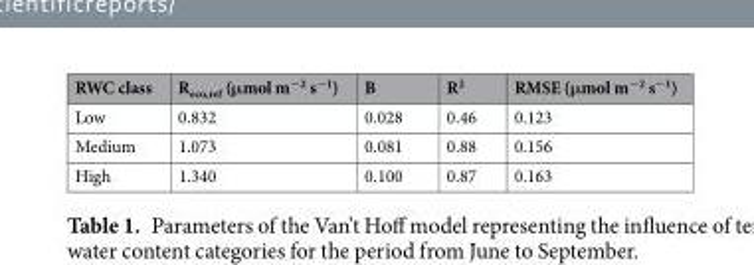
<table><thead><tr><td>RWC class</td><td>R<sub>eco,ref</sub> (μmol m<sup>−2</sup> s<sup>−1</sup>)</td><td>B</td><td>R<sup>2</sup></td><td>RMSE (μmol m<sup>−2</sup> s<sup>−1</sup>)</td></tr></thead><tbody><tr><td>Low</td><td>0.832</td><td>0.028</td><td>0.46</td><td>0.123</td></tr><tr><td>Medium</td><td>1.073</td><td>0.081</td><td>0.88</td><td>0.156</td></tr><tr><td>High</td><td>1.340</td><td>0.100</td><td>0.87</td><td>0.163</td></tr></tbody></table>